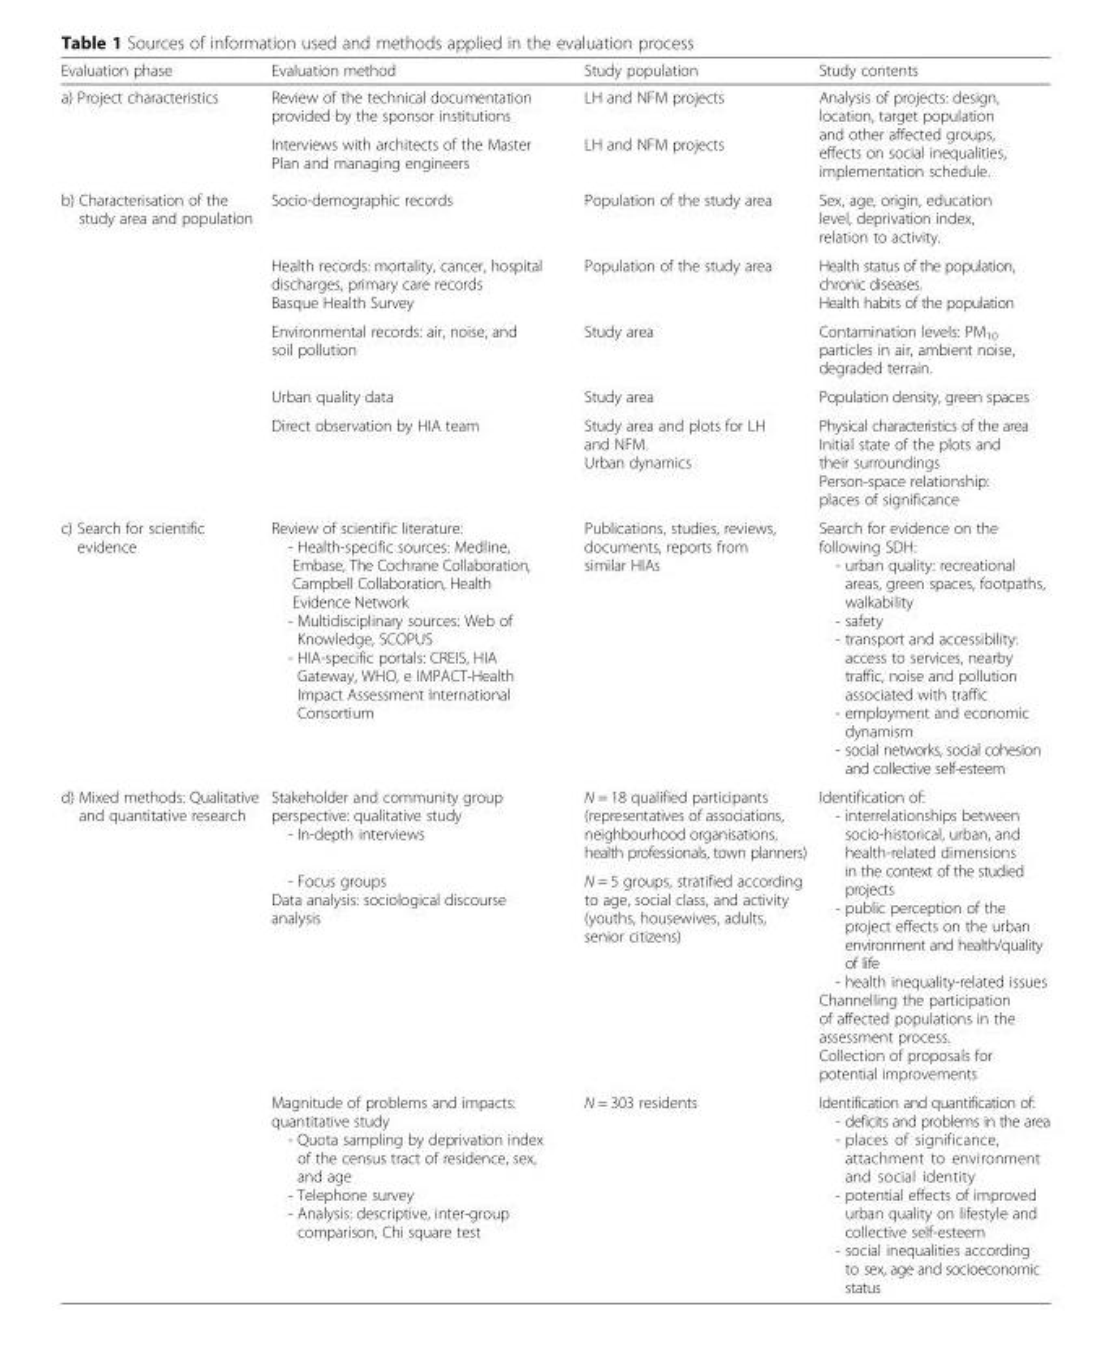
<table><thead><tr><td>Evaluation phase</td><td>Evaluation method</td><td>Study population</td><td>Study contents</td></tr></thead><tbody><tr><td rowspan="2">a) Project characteristics</td><td>Review of the technical documentation provided by the sponsor institutions</td><td>LH and NFM projects</td><td rowspan="2">Analysis of projects: design, location, target population and other affected groups, effects on social inequalities, implementation schedule.</td></tr><tr><td>Interviews with architects of the Master Plan and managing engineers</td><td>LH and NFM projects</td></tr><tr><td rowspan="5">b) Characterisation of the study area and population</td><td>Socio-demographic records</td><td>Population of the study area</td><td>Sex, age, origin, education level, deprivation index, relation to activity.</td></tr><tr><td>Health records: mortality, cancer, hospital discharges, primary care records Basque Health Survey</td><td>Population of the study area</td><td>Health status of the population, chronic diseases. Health habits of the population</td></tr><tr><td>Environmental records: air, noise, and soil pollution</td><td>Study area</td><td>Contamination levels: PM<sub>10</sub> particles in air, ambient noise, degraded terrain.</td></tr><tr><td>Urban quality data</td><td>Study area</td><td>Population density, green spaces</td></tr><tr><td>Direct observation by HIA team</td><td>Study area and plots for LH and NFM. Urban dynamics</td><td>Physical characteristics of the area Initial state of the plots and their surroundings Person-space relationship: places of significance</td></tr><tr><td>c) Search for scientific evidence</td><td>Review of scientific literature: - Health-specific sources: Medline, Embase, The Cochrane Collaboration, Campbell Collaboration, Health Evidence Network - Multidisciplinary sources: Web of Knowledge, SCOPUS - HIA-specific portals: CREIS, HIA Gateway, WHO, e IMPACT-Health Impact Assessment International Consortium</td><td>Publications, studies, reviews, documents, reports from similar HIAs</td><td>Search for evidence on the following SDH: - urban quality: recreational areas, green spaces, footpaths, walkability - safety - transport and accessibility: access to services, nearby traffic, noise and pollution associated with traffic - employment and economic dynamism - social networks, social cohesion and collective self-esteem</td></tr><tr><td rowspan="3">d) Mixed methods: Qualitative and quantitative research</td><td>Stakeholder and community group perspective: qualitative study - In-depth interviews</td><td>N = 18 qualified participants (representatives of associations, neighbourhood organisations, health professionals, town planners)</td><td rowspan="2">Identification of: - interrelationships between socio-historical, urban, and health-related dimensions in the context of the studied projects - public perception of the project effects on the urban environment and health/quality of life - health inequality-related issues Channelling the participation of affected populations in the assessment process. Collection of proposals for potential improvements</td></tr><tr><td>- Focus groups Data analysis: sociological discourse analysis</td><td>N = 5 groups, stratified according to age, social class, and activity (youths, housewives, adults, senior citizens)</td></tr><tr><td>Magnitude of problems and impacts: quantitative study - Quota sampling by deprivation index of the census tract of residence, sex, and age - Telephone survey - Analysis: descriptive, inter-group comparison, Chi square test</td><td>N = 303 residents</td><td>Identification and quantification of: - deficits and problems in the area - places of significance, attachment to environment and social identity - potential effects of improved urban quality on lifestyle and collective self-esteem - social inequalities according to sex, age and socioeconomic status</td></tr></tbody></table>